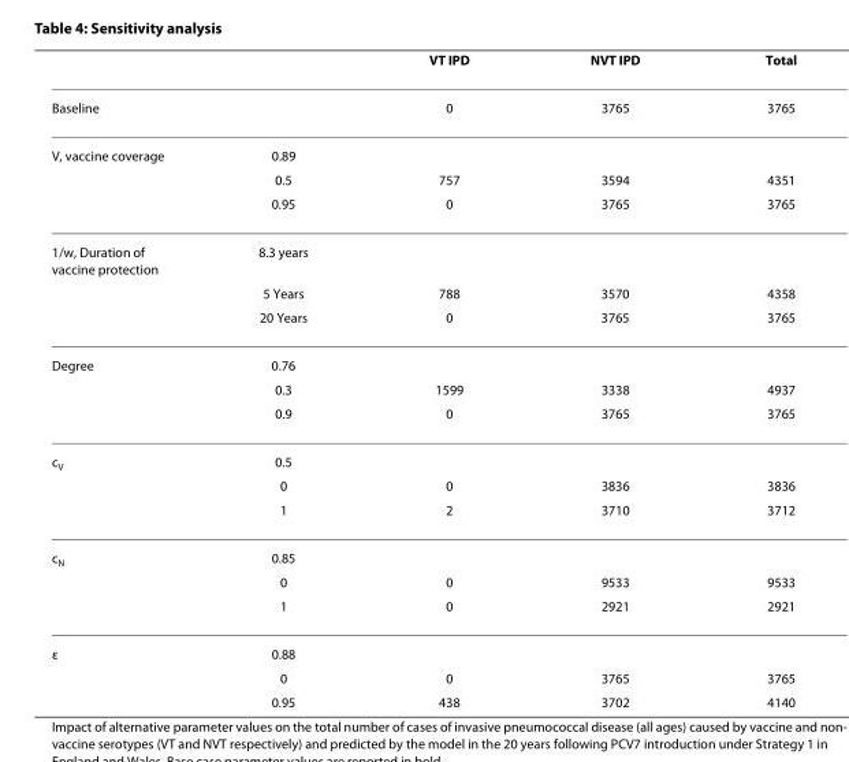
<table><thead><tr><td></td><td></td><td>VT IPD</td><td>NVT IPD</td><td>Total</td></tr></thead><tbody><tr><td>Baseline</td><td></td><td>0</td><td>3765</td><td>3765</td></tr><tr><td rowspan="3">V, vaccine coverage</td><td>0.89</td><td></td><td></td><td></td></tr><tr><td>0.5</td><td>757</td><td>3594</td><td>4351</td></tr><tr><td>0.95</td><td>0</td><td>3765</td><td>3765</td></tr><tr><td rowspan="3">1/w, Duration of vaccine protection</td><td>8.3 years</td><td></td><td></td><td></td></tr><tr><td>5 Years</td><td>788</td><td>3570</td><td>4358</td></tr><tr><td>20 Years</td><td>0</td><td>3765</td><td>3765</td></tr><tr><td rowspan="3">Degree</td><td>0.76</td><td></td><td></td><td></td></tr><tr><td>0.3</td><td>1599</td><td>3338</td><td>4937</td></tr><tr><td>0.9</td><td>0</td><td>3765</td><td>3765</td></tr><tr><td rowspan="3">c<sub>V</sub></td><td>0.5</td><td></td><td></td><td></td></tr><tr><td>0</td><td>0</td><td>3836</td><td>3836</td></tr><tr><td>1</td><td>2</td><td>3710</td><td>3712</td></tr><tr><td rowspan="3">c<sub>N</sub></td><td>0.85</td><td></td><td></td><td></td></tr><tr><td>0</td><td>0</td><td>9533</td><td>9533</td></tr><tr><td>1</td><td>0</td><td>2921</td><td>2921</td></tr><tr><td rowspan="3">ε</td><td>0.88</td><td></td><td></td><td></td></tr><tr><td>0</td><td>0</td><td>3765</td><td>3765</td></tr><tr><td>0.95</td><td>438</td><td>3702</td><td>4140</td></tr></tbody></table>